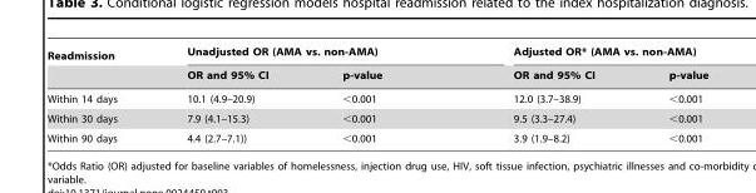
<table><thead><tr><td rowspan="2">Readmission</td><td colspan="2">Unadjusted OR (AMA vs. non-AMA)</td><td colspan="2">Adjusted OR* (AMA vs. non-AMA)</td></tr><tr><td>OR and 95% CI</td><td>p-value</td><td>OR and 95% CI</td><td>p-value</td></tr></thead><tbody><tr><td>Within 14 days</td><td>10.1 (4.9–20.9)</td><td>&lt;0.001</td><td>12.0 (3.7–38.9)</td><td>&lt;0.001</td></tr><tr><td>Within 30 days</td><td>7.9 (4.1–15.3)</td><td>&lt;0.001</td><td>9.5 (3.3–27.4)</td><td>&lt;0.001</td></tr><tr><td>Within 90 days</td><td>4.4 (2.7–7.1))</td><td>&lt;0.001</td><td>3.9 (1.9–8.2)</td><td>&lt;0.001</td></tr></tbody></table>